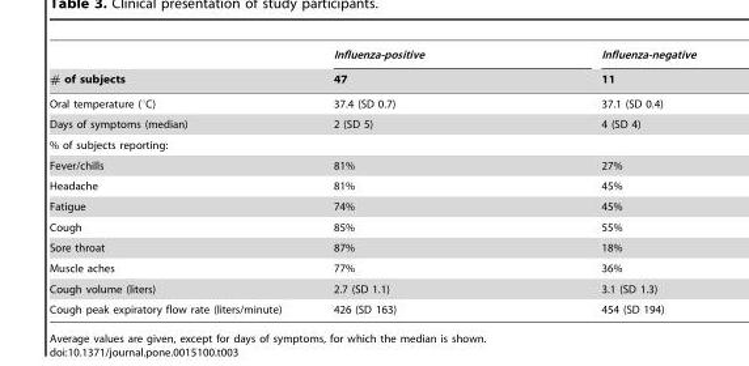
<table><thead><tr><td rowspan="2"># of subjects</td><td rowspan="2">Influenza-positive 47</td><td rowspan="2">Influenza-negative 11</td></tr><tr></tr></thead><tbody><tr><td>Oral temperature (°C)</td><td>37.4 (SD 0.7)</td><td>37.1 (SD 0.4)</td></tr><tr><td>Days of symptoms (median)</td><td>2 (SD 5)</td><td>4 (SD 4)</td></tr><tr><td colspan="3">% of subjects reporting:</td></tr><tr><td>Fever/chills</td><td>81%</td><td>27%</td></tr><tr><td>Headache</td><td>81%</td><td>45%</td></tr><tr><td>Fatigue</td><td>74%</td><td>45%</td></tr><tr><td>Cough</td><td>85%</td><td>55%</td></tr><tr><td>Sore throat</td><td>87%</td><td>18%</td></tr><tr><td>Muscle aches</td><td>77%</td><td>36%</td></tr><tr><td>Cough volume (liters)</td><td>2.7 (SD 1.1)</td><td>3.1 (SD 1.3)</td></tr><tr><td>Cough peak expiratory flow rate (liters/minute)</td><td>426 (SD 163)</td><td>454 (SD 194)</td></tr></tbody></table>